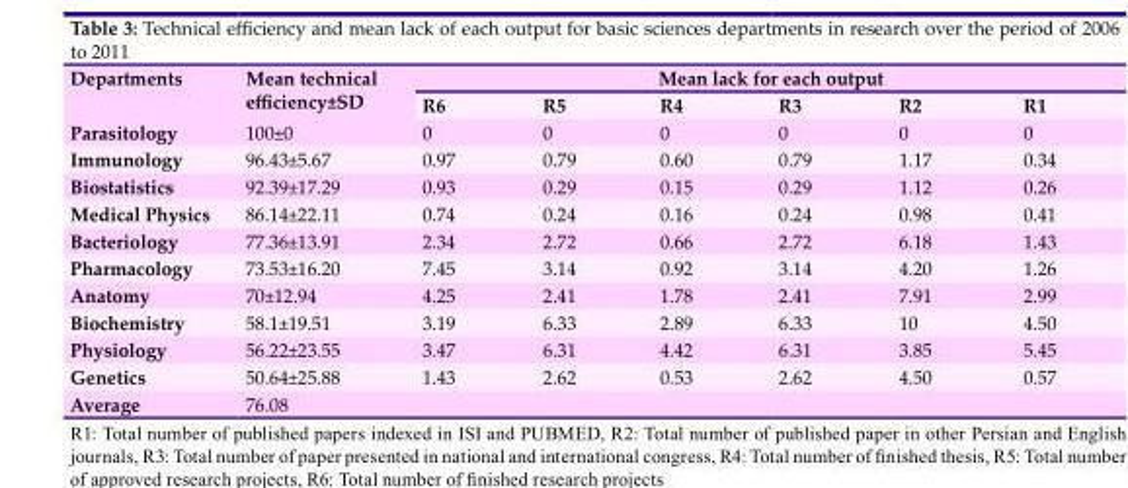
<table><thead><tr><td rowspan="2">Departments</td><td rowspan="2">Mean technical efficiency±SD</td><td colspan="6">Mean lack for each output</td></tr><tr><td>R6</td><td>R5</td><td>R4</td><td>R3</td><td>R2</td><td>R1</td></tr></thead><tbody><tr><td>Parasitology</td><td>100±0</td><td>0</td><td>0</td><td>0</td><td>0</td><td>0</td><td>0</td></tr><tr><td>Immunology</td><td>96.43±5.67</td><td>0.97</td><td>0.79</td><td>0.60</td><td>0.79</td><td>1.17</td><td>0.34</td></tr><tr><td>Biostatistics</td><td>92.39±17.29</td><td>0.93</td><td>0.29</td><td>0.15</td><td>0.29</td><td>1.12</td><td>0.26</td></tr><tr><td>Medical Physics</td><td>86.14±22.11</td><td>0.74</td><td>0.24</td><td>0.16</td><td>0.24</td><td>0.98</td><td>0.41</td></tr><tr><td>Bacteriology</td><td>77.36±13.91</td><td>2.34</td><td>2.72</td><td>0.66</td><td>2.72</td><td>6.18</td><td>1.43</td></tr><tr><td>Pharmacology</td><td>73.53±16.20</td><td>7.45</td><td>3.14</td><td>0.92</td><td>3.14</td><td>4.20</td><td>1.26</td></tr><tr><td>Anatomy</td><td>70±12.94</td><td>4.25</td><td>2.41</td><td>1.78</td><td>2.41</td><td>7.91</td><td>2.99</td></tr><tr><td>Biochemistry</td><td>58.1±19.51</td><td>3.19</td><td>6.33</td><td>2.89</td><td>6.33</td><td>10</td><td>4.50</td></tr><tr><td>Physiology</td><td>56.22±23.55</td><td>3.47</td><td>6.31</td><td>4.42</td><td>6.31</td><td>3.85</td><td>5.45</td></tr><tr><td>Genetics</td><td>50.64±25.88</td><td>1.43</td><td>2.62</td><td>0.53</td><td>2.62</td><td>4.50</td><td>0.57</td></tr><tr><td>Average</td><td>76.08</td><td></td><td></td><td></td><td></td><td></td><td></td></tr></tbody></table>